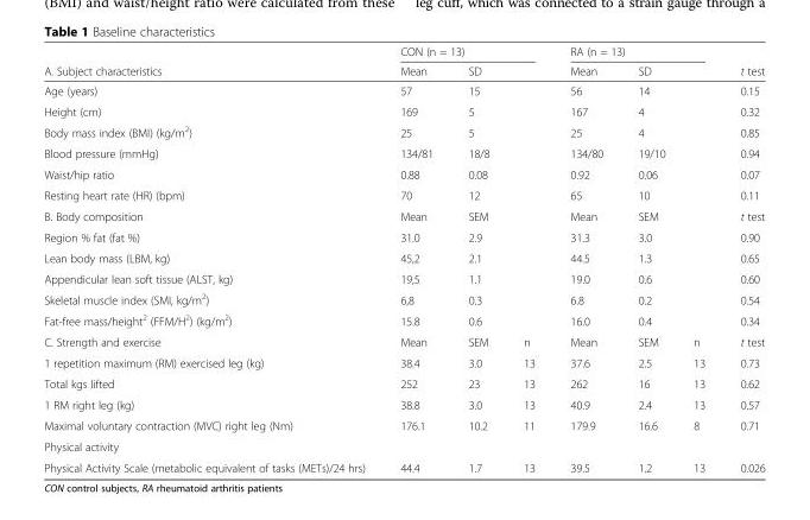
<table><thead><tr><td rowspan="2">A. Subject characteristics</td><td colspan="3">CON (n = 13)</td><td colspan="3">RA (n = 13)</td><td rowspan="2">t test</td></tr><tr><td>Mean</td><td colspan="2">SD</td><td>Mean</td><td colspan="2">SD</td></tr></thead><tbody><tr><td>Age (years)</td><td>57</td><td colspan="2">15</td><td>56</td><td colspan="2">14</td><td>0.15</td></tr><tr><td>Height (cm)</td><td>169</td><td colspan="2">5</td><td>167</td><td colspan="2">4</td><td>0.32</td></tr><tr><td>Body mass index (BMI) (kg/m<sup>2</sup>)</td><td>25</td><td colspan="2">5</td><td>25</td><td colspan="2">4</td><td>0.85</td></tr><tr><td>Blood pressure (mmHg)</td><td>134/81</td><td colspan="2">18/8</td><td>134/80</td><td colspan="2">19/10</td><td>0.94</td></tr><tr><td>Waist/hip ratio</td><td>0.88</td><td colspan="2">0.08</td><td>0.92</td><td colspan="2">0.06</td><td>0.07</td></tr><tr><td>Resting heart rate (HR) (bpm)</td><td>70</td><td colspan="2">12</td><td>65</td><td colspan="2">10</td><td>0.11</td></tr><tr><td>B. Body composition</td><td>Mean</td><td>SEM</td><td></td><td>Mean</td><td>SEM</td><td></td><td>t test</td></tr><tr><td>Region % fat (fat %)</td><td>31.0</td><td colspan="2">2.9</td><td>31.3</td><td colspan="2">3.0</td><td>0.90</td></tr><tr><td>Lean body mass (LBM, kg)</td><td>45,2</td><td colspan="2">2.1</td><td>44.5</td><td colspan="2">1.3</td><td>0.65</td></tr><tr><td>Appendicular lean soft tissue (ALST, kg)</td><td>19,5</td><td colspan="2">1.1</td><td>19.0</td><td colspan="2">0.6</td><td>0.60</td></tr><tr><td>Skeletal muscle index (SMI, kg/m<sup>2</sup>)</td><td>6,8</td><td colspan="2">0.3</td><td>6.8</td><td colspan="2">0.2</td><td>0.54</td></tr><tr><td>Fat-free mass/height<sup>2</sup> (FFM/H<sup>2</sup>) (kg/m<sup>2</sup>)</td><td>15.8</td><td colspan="2">0.6</td><td>16.0</td><td colspan="2">0.4</td><td>0.34</td></tr><tr><td>C. Strength and exercise</td><td>Mean</td><td>SEM</td><td>n</td><td>Mean</td><td>SEM</td><td>n</td><td>t test</td></tr><tr><td>1 repetition maximum (RM) exercised leg (kg)</td><td>38.4</td><td>3.0</td><td>13</td><td>37.6</td><td>2.5</td><td>13</td><td>0.73</td></tr><tr><td>Total kgs lifted</td><td>252</td><td>23</td><td>13</td><td>262</td><td>16</td><td>13</td><td>0.62</td></tr><tr><td>1 RM right leg (kg)</td><td>38.8</td><td>3.0</td><td>13</td><td>40.9</td><td>2.4</td><td>13</td><td>0.57</td></tr><tr><td>Maximal voluntary contraction (MVC) right leg (Nm)</td><td>176.1</td><td>10.2</td><td>11</td><td>179.9</td><td>16.6</td><td>8</td><td>0.71</td></tr><tr><td colspan="8">Physical activity</td></tr><tr><td>Physical Activity Scale (metabolic equivalent of tasks (METs)/24 hrs)</td><td>44.4</td><td>1.7</td><td>13</td><td>39.5</td><td>1.2</td><td>13</td><td>0.026</td></tr></tbody></table>